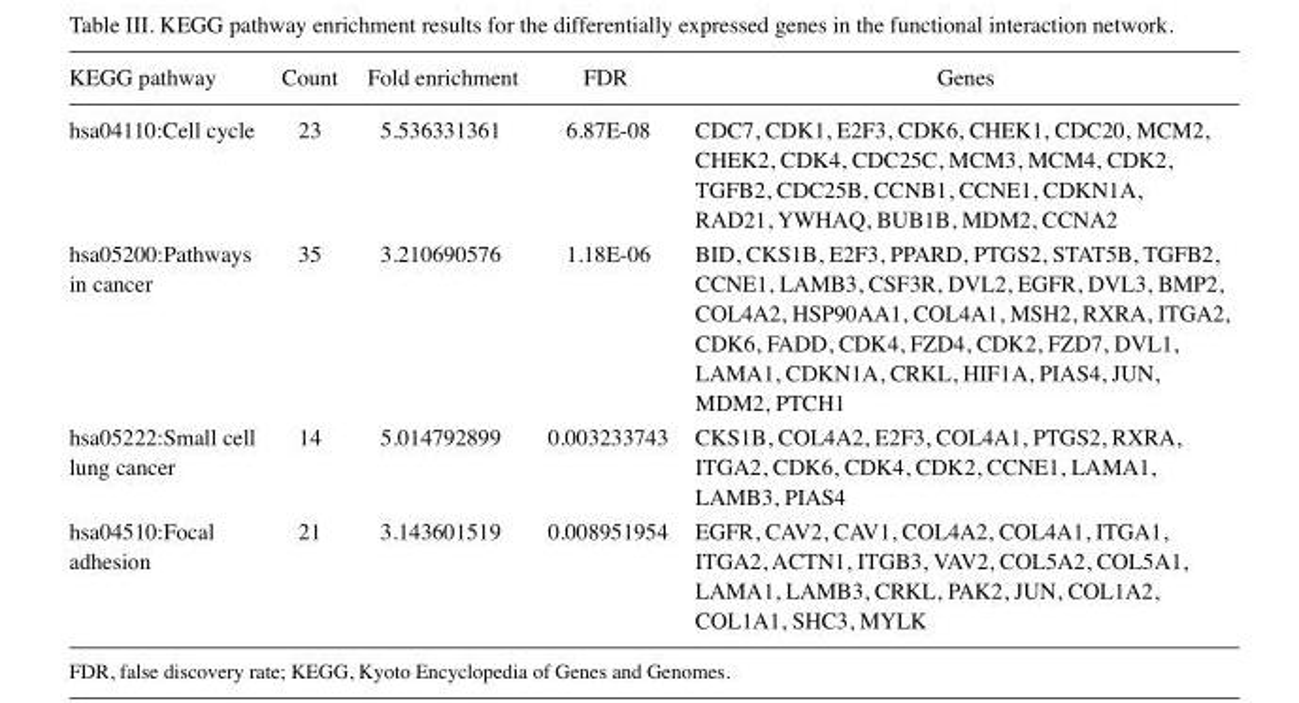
<table><thead><tr><td>KEGG pathway</td><td>Count</td><td>Fold enrichment</td><td>FDR</td><td>Genes</td></tr></thead><tbody><tr><td>hsa04110:Cell cycle</td><td>23</td><td>5.536331361</td><td>6.87E-08</td><td>CDC7, CDK1, E2F3, CDK6, CHEK1, CDC20, MCM2, CHEK2, CDK4, CDC25C, MCM3, MCM4, CDK2, TGFB2, CDC25B, CCNB1, CCNE1, CDKN1A, RAD21, YWHAQ, BUB1B, MDM2, CCNA2</td></tr><tr><td>hsa05200:Pathways in cancer</td><td>35</td><td>3.210690576</td><td>1.18E-06</td><td>BID, CKS1B, E2F3, PPARD, PTGS2, STAT5B, TGFB2, CCNE1, LAMB3, CSF3R, DVL2, EGFR, DVL3, BMP2, COL4A2, HSP90AA1, COL4A1, MSH2, RXRA, ITGA2, CDK6, FADD, CDK4, FZD4, CDK2, FZD7, DVL1, LAMA1, CDKN1A, CRKL, HIF1A, PIAS4, JUN, MDM2, PTCH1</td></tr><tr><td>hsa05222:Small cell lung cancer</td><td>14</td><td>5.014792899</td><td>0.003233743</td><td>CKS1B, COL4A2, E2F3, COL4A1, PTGS2, RXRA, ITGA2, CDK6, CDK4, CDK2, CCNE1, LAMA1, LAMB3, PIAS4</td></tr><tr><td>hsa04510:Focal adhesion</td><td>21</td><td>3.143601519</td><td>0.008951954</td><td>EGFR, CAV2, CAV1, COL4A2, COL4A1, ITGA1, ITGA2, ACTN1, ITGB3, VAV2, COL5A2, COL5A1, LAMA1, LAMB3, CRKL, PAK2, JUN, COL1A2, COL1A1, SHC3, MYLK</td></tr></tbody></table>